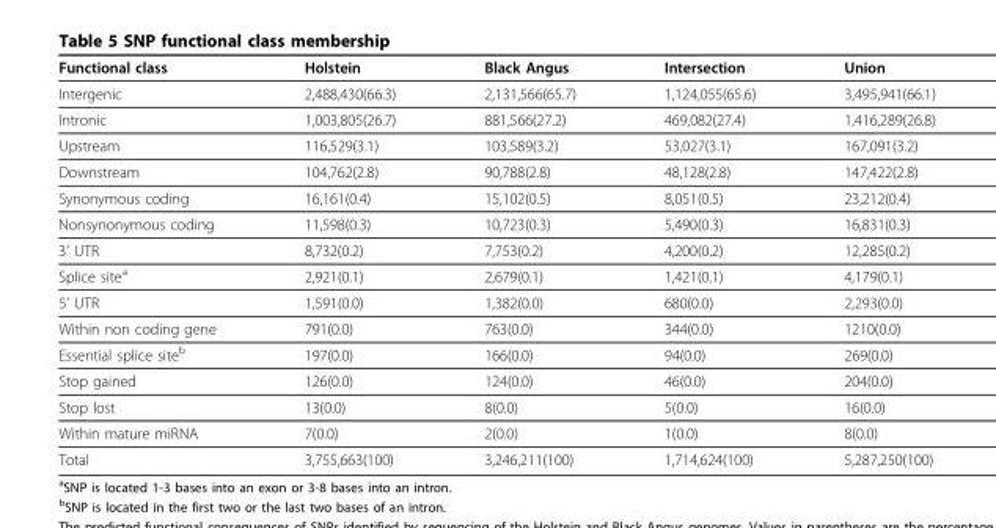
<table><thead><tr><td>Functional class</td><td>Holstein</td><td>Black Angus</td><td>Intersection</td><td>Union</td></tr></thead><tbody><tr><td>Intergenic</td><td>2,488,430(66.3)</td><td>2,131,566(65.7)</td><td>1,124,055(65.6)</td><td>3,495,941(66.1)</td></tr><tr><td>Intronic</td><td>1,003,805(26.7)</td><td>881,566(27.2)</td><td>469,082(27.4)</td><td>1,416,289(26.8)</td></tr><tr><td>Upstream</td><td>116,529(3.1)</td><td>103,589(3.2)</td><td>53,027(3.1)</td><td>167,091(3.2)</td></tr><tr><td>Downstream</td><td>104,762(2.8)</td><td>90,788(2.8)</td><td>48,128(2.8)</td><td>147,422(2.8)</td></tr><tr><td>Synonymous coding</td><td>16,161(0.4)</td><td>15,102(0.5)</td><td>8,051(0.5)</td><td>23,212(0.4)</td></tr><tr><td>Nonsynonymous coding</td><td>11,598(0.3)</td><td>10,723(0.3)</td><td>5,490(0.3)</td><td>16,831(0.3)</td></tr><tr><td>3’ UTR</td><td>8,732(0.2)</td><td>7,753(0.2)</td><td>4,200(0.2)</td><td>12,285(0.2)</td></tr><tr><td>Splice site<sup>a</sup></td><td>2,921(0.1)</td><td>2,679(0.1)</td><td>1,421(0.1)</td><td>4,179(0.1)</td></tr><tr><td>5’ UTR</td><td>1,591(0.0)</td><td>1,382(0.0)</td><td>680(0.0)</td><td>2,293(0.0)</td></tr><tr><td>Within non coding gene</td><td>791(0.0)</td><td>763(0.0)</td><td>344(0.0)</td><td>1210(0.0)</td></tr><tr><td>Essential splice site<sup>b</sup></td><td>197(0.0)</td><td>166(0.0)</td><td>94(0.0)</td><td>269(0.0)</td></tr><tr><td>Stop gained</td><td>126(0.0)</td><td>124(0.0)</td><td>46(0.0)</td><td>204(0.0)</td></tr><tr><td>Stop lost</td><td>13(0.0)</td><td>8(0.0)</td><td>5(0.0)</td><td>16(0.0)</td></tr><tr><td>Within mature miRNA</td><td>7(0.0)</td><td>2(0.0)</td><td>1(0.0)</td><td>8(0.0)</td></tr><tr><td>Total</td><td>3,755,663(100)</td><td>3,246,211(100)</td><td>1,714,624(100)</td><td>5,287,250(100)</td></tr></tbody></table>